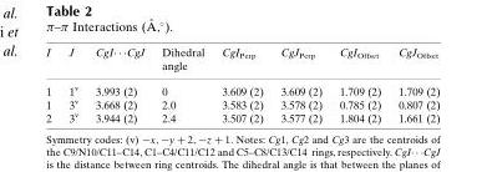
<table><thead><tr><td>I</td><td>J</td><td>CgI� � �CgJ</td><td>Dihedral angle</td><td>CgI<sub>Perp</sub></td><td>CgJ<sub>Perp</sub></td><td>CgI<sub>Offset</sub></td><td>CgJ<sub>Offset</sub></td></tr></thead><tbody><tr><td>1</td><td>1<sup>v</sup></td><td>3.993 (2)</td><td>0</td><td>3.609 (2)</td><td>3.609 (2)</td><td>1.709 (2)</td><td>1.709 (2)</td></tr><tr><td>1</td><td>3<sup>v</sup></td><td>3.668 (2)</td><td>2.0</td><td>3.583 (2)</td><td>3.578 (2)</td><td>0.785 (2)</td><td>0.807 (2)</td></tr><tr><td>2</td><td>3<sup>v</sup></td><td>3.944 (2)</td><td>2.4</td><td>3.507 (2)</td><td>3.577 (2)</td><td>1.804 (2)</td><td>1.661 (2)</td></tr></tbody></table>